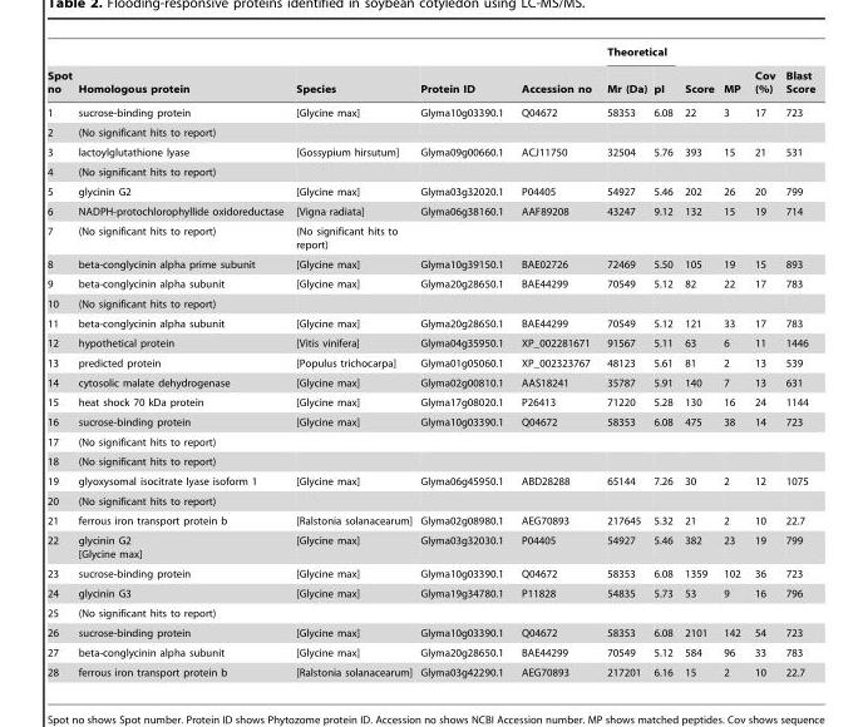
<table><thead><tr><td rowspan="2">Spot no</td><td rowspan="2">Homologous protein</td><td rowspan="2">Species</td><td rowspan="2">Protein ID</td><td rowspan="2">Accession no</td><td colspan="2">Theoretical</td><td rowspan="2">Score</td><td rowspan="2">MP</td><td rowspan="2">Cov (%)</td><td rowspan="2">Blast Score</td></tr><tr><td>Mr (Da)</td><td>pI</td></tr></thead><tbody><tr><td>1</td><td>sucrose-binding protein</td><td>[Glycine max]</td><td>Glyma10g03390.1</td><td>Q04672</td><td>58353</td><td>6.08</td><td>22</td><td>3</td><td>17</td><td>723</td></tr><tr><td>2</td><td>(No significant hits to report)</td><td></td><td></td><td></td><td></td><td></td><td></td><td></td><td></td><td></td></tr><tr><td>3</td><td>lactoylglutathione lyase</td><td>[Gossypium hirsutum]</td><td>Glyma09g00660.1</td><td>ACJ11750</td><td>32504</td><td>5.76</td><td>393</td><td>15</td><td>21</td><td>531</td></tr><tr><td>4</td><td>(No significant hits to report)</td><td></td><td></td><td></td><td></td><td></td><td></td><td></td><td></td><td></td></tr><tr><td>5</td><td>glycinin G2</td><td>[Glycine max]</td><td>Glyma03g32020.1</td><td>P04405</td><td>54927</td><td>5.46</td><td>202</td><td>26</td><td>20</td><td>799</td></tr><tr><td>6</td><td>NADPH-protochlorophyllide oxidoreductase</td><td>[Vigna radiata]</td><td>Glyma06g38160.1</td><td>AAF89208</td><td>43247</td><td>9.12</td><td>132</td><td>15</td><td>19</td><td>714</td></tr><tr><td>7</td><td>(No significant hits to report)</td><td>(No significant hits to report)</td><td></td><td></td><td></td><td></td><td></td><td></td><td></td><td></td></tr><tr><td>8</td><td>beta-conglycinin alpha prime subunit</td><td>[Glycine max]</td><td>Glyma10g39150.1</td><td>BAE02726</td><td>72469</td><td>5.50</td><td>105</td><td>19</td><td>15</td><td>893</td></tr><tr><td>9</td><td>beta-conglycinin alpha subunit</td><td>[Glycine max]</td><td>Glyma20g28650.1</td><td>BAE44299</td><td>70549</td><td>5.12</td><td>82</td><td>22</td><td>17</td><td>783</td></tr><tr><td>10</td><td>(No significant hits to report)</td><td></td><td></td><td></td><td></td><td></td><td></td><td></td><td></td><td></td></tr><tr><td>11</td><td>beta-conglycinin alpha subunit</td><td>[Glycine max]</td><td>Glyma20g28650.1</td><td>BAE44299</td><td>70549</td><td>5.12</td><td>121</td><td>33</td><td>17</td><td>783</td></tr><tr><td>12</td><td>hypothetical protein</td><td>[Vitis vinifera]</td><td>Glyma04g35950.1</td><td>XP_002281671</td><td>91567</td><td>5.11</td><td>63</td><td>6</td><td>11</td><td>1446</td></tr><tr><td>13</td><td>predicted protein</td><td>[Populus trichocarpa]</td><td>Glyma01g05060.1</td><td>XP_002323767</td><td>48123</td><td>5.61</td><td>81</td><td>2</td><td>13</td><td>539</td></tr><tr><td>14</td><td>cytosolic malate dehydrogenase</td><td>[Glycine max]</td><td>Glyma02g00810.1</td><td>AAS18241</td><td>35787</td><td>5.91</td><td>140</td><td>7</td><td>13</td><td>631</td></tr><tr><td>15</td><td>heat shock 70 kDa protein</td><td>[Glycine max]</td><td>Glyma17g08020.1</td><td>P26413</td><td>71220</td><td>5.28</td><td>130</td><td>16</td><td>24</td><td>1144</td></tr><tr><td>16</td><td>sucrose-binding protein</td><td>[Glycine max]</td><td>Glyma10g03390.1</td><td>Q04672</td><td>58353</td><td>6.08</td><td>475</td><td>38</td><td>14</td><td>723</td></tr><tr><td>17</td><td>(No significant hits to report)</td><td></td><td></td><td></td><td></td><td></td><td></td><td></td><td></td><td></td></tr><tr><td>18</td><td>(No significant hits to report)</td><td></td><td></td><td></td><td></td><td></td><td></td><td></td><td></td><td></td></tr><tr><td>19</td><td>glyoxysomal isocitrate lyase isoform 1</td><td>[Glycine max]</td><td>Glyma06g45950.1</td><td>ABD28288</td><td>65144</td><td>7.26</td><td>30</td><td>2</td><td>12</td><td>1075</td></tr><tr><td>20</td><td>(No significant hits to report)</td><td></td><td></td><td></td><td></td><td></td><td></td><td></td><td></td><td></td></tr><tr><td>21</td><td>ferrous iron transport protein b</td><td>[Ralstonia solanacearum]</td><td>Glyma02g08980.1</td><td>AEG70893</td><td>217645</td><td>5.32</td><td>21</td><td>2</td><td>10</td><td>22.7</td></tr><tr><td>22</td><td>glycinin G2 [Glycine max]</td><td>[Glycine max]</td><td>Glyma03g32030.1</td><td>P04405</td><td>54927</td><td>5.46</td><td>382</td><td>23</td><td>19</td><td>799</td></tr><tr><td>23</td><td>sucrose-binding protein</td><td>[Glycine max]</td><td>Glyma10g03390.1</td><td>Q04672</td><td>58353</td><td>6.08</td><td>1359</td><td>102</td><td>36</td><td>723</td></tr><tr><td>24</td><td>glycinin G3</td><td>[Glycine max]</td><td>Glyma19g34780.1</td><td>P11828</td><td>54835</td><td>5.73</td><td>53</td><td>9</td><td>16</td><td>796</td></tr><tr><td>25</td><td>(No significant hits to report)</td><td></td><td></td><td></td><td></td><td></td><td></td><td></td><td></td><td></td></tr><tr><td>26</td><td>sucrose-binding protein</td><td>[Glycine max]</td><td>Glyma10g03390.1</td><td>Q04672</td><td>58353</td><td>6.08</td><td>2101</td><td>142</td><td>54</td><td>723</td></tr><tr><td>27</td><td>beta-conglycinin alpha subunit</td><td>[Glycine max]</td><td>Glyma20g28650.1</td><td>BAE44299</td><td>70549</td><td>5.12</td><td>584</td><td>96</td><td>33</td><td>783</td></tr><tr><td>28</td><td>ferrous iron transport protein b</td><td>[Ralstonia solanacearum]</td><td>Glyma03g42290.1</td><td>AEG70893</td><td>217201</td><td>6.16</td><td>15</td><td>2</td><td>10</td><td>22.7</td></tr></tbody></table>